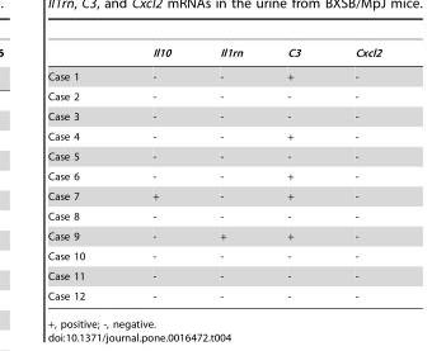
<table><thead><tr><td></td><td>Il10</td><td>Il1rn</td><td>C3</td><td>Cxcl2</td></tr></thead><tbody><tr><td>Case 1</td><td>-</td><td>-</td><td>+</td><td>-</td></tr><tr><td>Case 2</td><td>-</td><td>-</td><td>-</td><td>-</td></tr><tr><td>Case 3</td><td>-</td><td>-</td><td>-</td><td>-</td></tr><tr><td>Case 4</td><td>-</td><td>-</td><td>+</td><td>-</td></tr><tr><td>Case 5</td><td>-</td><td>-</td><td>-</td><td>-</td></tr><tr><td>Case 6</td><td>-</td><td>-</td><td>+</td><td>-</td></tr><tr><td>Case 7</td><td>+</td><td>-</td><td>+</td><td>-</td></tr><tr><td>Case 8</td><td>-</td><td>-</td><td>-</td><td>-</td></tr><tr><td>Case 9</td><td>-</td><td>+</td><td>+</td><td>-</td></tr><tr><td>Case 10</td><td>-</td><td>-</td><td>-</td><td>-</td></tr><tr><td>Case 11</td><td>-</td><td>-</td><td>-</td><td>-</td></tr><tr><td>Case 12</td><td>-</td><td>-</td><td>-</td><td>-</td></tr></tbody></table>